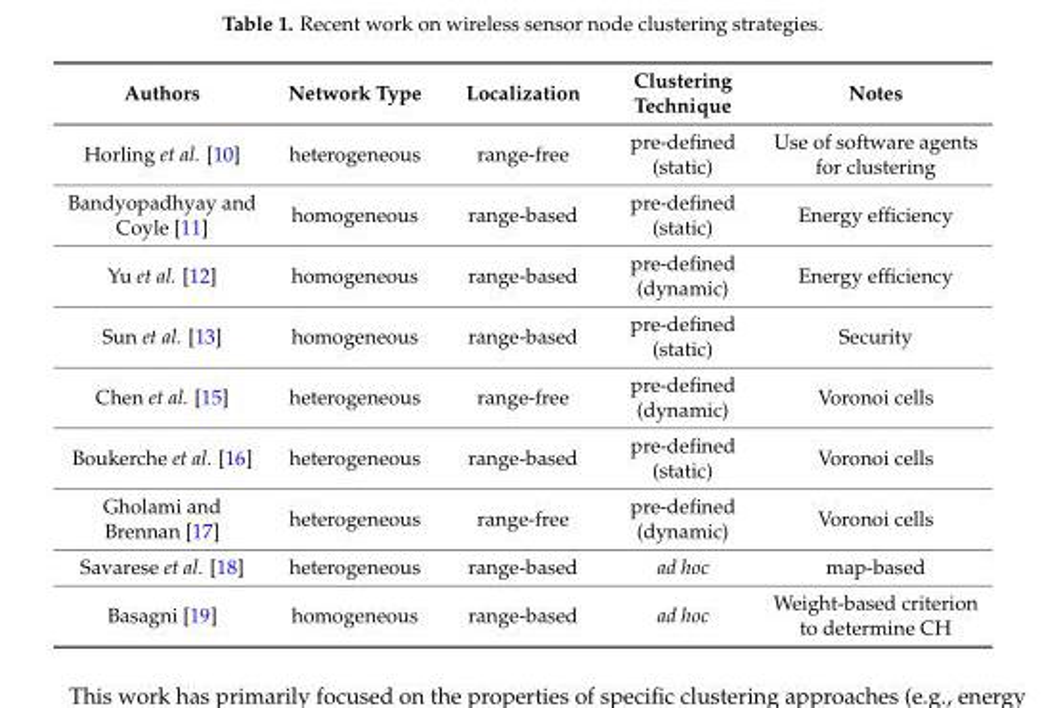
<table><thead><tr><td>Authors</td><td>Network Type</td><td>Localization</td><td>Clustering Technique</td><td>Notes</td></tr></thead><tbody><tr><td>Horling et al. [10]</td><td>heterogeneous</td><td>range-free</td><td>pre-defined (static)</td><td>Use of software agents for clustering</td></tr><tr><td>Bandyopadhyay and Coyle [11]</td><td>homogeneous</td><td>range-based</td><td>pre-defined (static)</td><td>Energy efficiency</td></tr><tr><td>Yu et al. [12]</td><td>homogeneous</td><td>range-based</td><td>pre-defined (dynamic)</td><td>Energy efficiency</td></tr><tr><td>Sun et al. [13]</td><td>homogeneous</td><td>range-based</td><td>pre-defined (static)</td><td>Security</td></tr><tr><td>Chen et al. [15]</td><td>heterogeneous</td><td>range-free</td><td>pre-defined (dynamic)</td><td>Voronoi cells</td></tr><tr><td>Boukerche et al. [16]</td><td>heterogeneous</td><td>range-based</td><td>pre-defined (static)</td><td>Voronoi cells</td></tr><tr><td>Gholami and Brennan [17]</td><td>heterogeneous</td><td>range-free</td><td>pre-defined (dynamic)</td><td>Voronoi cells</td></tr><tr><td>Savarese et al. [18]</td><td>heterogeneous</td><td>range-based</td><td>ad hoc</td><td>map-based</td></tr><tr><td>Basagni [19]</td><td>homogeneous</td><td>range-based</td><td>ad hoc</td><td>Weight-based criterion to determine CH</td></tr></tbody></table>